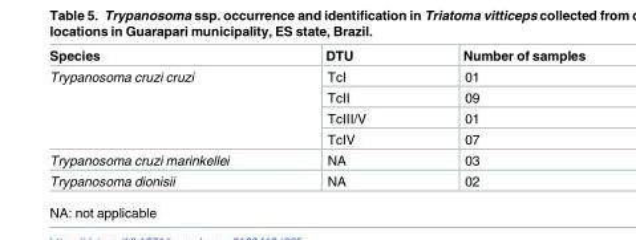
<table><thead><tr><td>Species</td><td>DTU</td><td>Number of samples</td></tr></thead><tbody><tr><td rowspan="4">Trypanosoma cruzi cruzi</td><td>TcI</td><td>01</td></tr><tr><td>TcII</td><td>09</td></tr><tr><td>TcIII/V</td><td>01</td></tr><tr><td>TcIV</td><td>07</td></tr><tr><td>Trypanosoma cruzi marinkellei</td><td>NA</td><td>03</td></tr><tr><td>Trypanosoma dionisii</td><td>NA</td><td>02</td></tr></tbody></table>